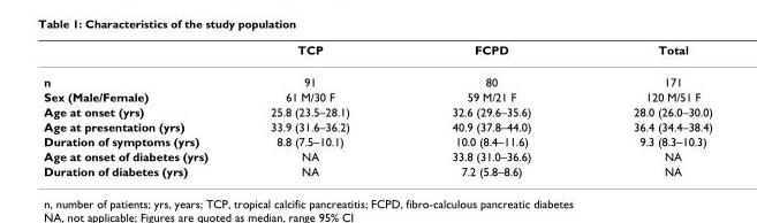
<table><thead><tr><td></td><td>TCP</td><td>FCPD</td><td>Total</td></tr></thead><tbody><tr><td>n</td><td>91</td><td>80</td><td>171</td></tr><tr><td>Sex (Male/Female)</td><td>61 M/30 F</td><td>59 M/21 F</td><td>120 M/51 F</td></tr><tr><td>Age at onset (yrs)</td><td>25.8 (23.5–28.1)</td><td>32.6 (29.6–35.6)</td><td>28.0 (26.0–30.0)</td></tr><tr><td>Age at presentation (yrs)</td><td>33.9 (31.6–36.2)</td><td>40.9 (37.8–44.0)</td><td>36.4 (34.4–38.4)</td></tr><tr><td>Duration of symptoms (yrs)</td><td>8.8 (7.5–10.1)</td><td>10.0 (8.4–11.6)</td><td>9.3 (8.3–10.3)</td></tr><tr><td>Age at onset of diabetes (yrs)</td><td>NA</td><td>33.8 (31.0–36.6)</td><td>NA</td></tr><tr><td>Duration of diabetes (yrs)</td><td>NA</td><td>7.2 (5.8–8.6)</td><td>NA</td></tr></tbody></table>